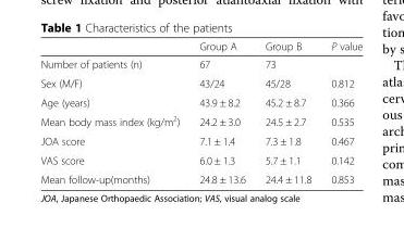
<table><thead><tr><td></td><td>Group A</td><td>Group B</td><td>P value</td></tr></thead><tbody><tr><td>Number of patients (n)</td><td>67</td><td>73</td><td></td></tr><tr><td>Sex (M/F)</td><td>43/24</td><td>45/28</td><td>0.812</td></tr><tr><td>Age (years)</td><td>43.9 ± 8.2</td><td>45.2 ± 8.7</td><td>0.366</td></tr><tr><td>Mean body mass index (kg/m<sup>2</sup>)</td><td>24.2 ± 3.0</td><td>24.5 ± 2.7</td><td>0.535</td></tr><tr><td>JOA score</td><td>7.1 ± 1.4</td><td>7.3 ± 1.8</td><td>0.467</td></tr><tr><td>VAS score</td><td>6.0 ± 1.3</td><td>5.7 ± 1.1</td><td>0.142</td></tr><tr><td>Mean follow-up(months)</td><td>24.8 ± 13.6</td><td>24.4 ± 11.8</td><td>0.853</td></tr></tbody></table>